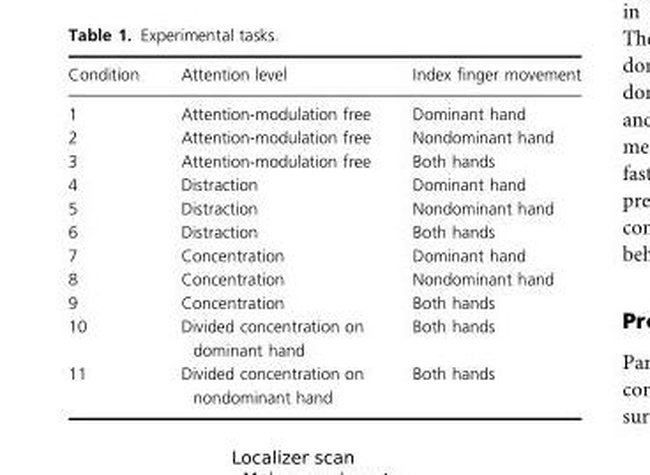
<table><thead><tr><td>Condition</td><td>Attention level</td><td>Index finger movement</td></tr></thead><tbody><tr><td>1</td><td>Attention-modulation free</td><td>Dominant hand</td></tr><tr><td>2</td><td>Attention-modulation free</td><td>Nondominant hand</td></tr><tr><td>3</td><td>Attention-modulation free</td><td>Both hands</td></tr><tr><td>4</td><td>Distraction</td><td>Dominant hand</td></tr><tr><td>5</td><td>Distraction</td><td>Nondominant hand</td></tr><tr><td>6</td><td>Distraction</td><td>Both hands</td></tr><tr><td>7</td><td>Concentration</td><td>Dominant hand</td></tr><tr><td>8</td><td>Concentration</td><td>Nondominant hand</td></tr><tr><td>9</td><td>Concentration</td><td>Both hands</td></tr><tr><td>10</td><td>Divided concentration on dominant hand</td><td>Both hands</td></tr><tr><td>11</td><td>Divided concentration on nondominant hand</td><td>Both hands</td></tr></tbody></table>